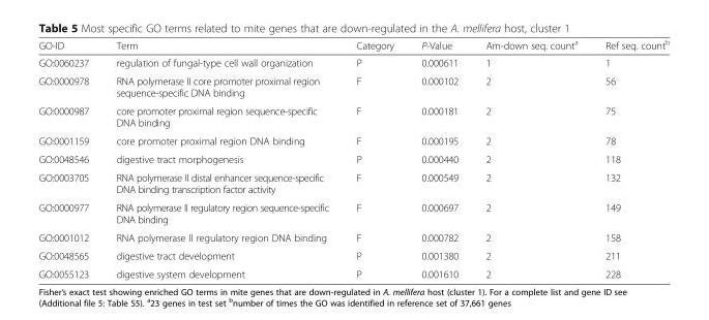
<table><thead><tr><td>GO-ID</td><td>Term</td><td>Category</td><td>P-Value</td><td>Am-down seq. count<sup>a</sup></td><td>Ref seq. count<sup>b</sup></td></tr></thead><tbody><tr><td>GO:0060237</td><td>regulation of fungal-type cell wall organization</td><td>P</td><td>0.000611</td><td>1</td><td>1</td></tr><tr><td>GO:0000978</td><td>RNA polymerase II core promoter proximal region sequence-specific DNA binding</td><td>F</td><td>0.000102</td><td>2</td><td>56</td></tr><tr><td>GO:0000987</td><td>core promoter proximal region sequence-specific DNA binding</td><td>F</td><td>0.000181</td><td>2</td><td>75</td></tr><tr><td>GO:0001159</td><td>core promoter proximal region DNA binding</td><td>F</td><td>0.000195</td><td>2</td><td>78</td></tr><tr><td>GO:0048546</td><td>digestive tract morphogenesis</td><td>P</td><td>0.000440</td><td>2</td><td>118</td></tr><tr><td>GO:0003705</td><td>RNA polymerase II distal enhancer sequence-specific DNA binding transcription factor activity</td><td>F</td><td>0.000549</td><td>2</td><td>132</td></tr><tr><td>GO:0000977</td><td>RNA polymerase II regulatory region sequence-specific DNA binding</td><td>F</td><td>0.000697</td><td>2</td><td>149</td></tr><tr><td>GO:0001012</td><td>RNA polymerase II regulatory region DNA binding</td><td>F</td><td>0.000782</td><td>2</td><td>158</td></tr><tr><td>GO:0048565</td><td>digestive tract development</td><td>P</td><td>0.001380</td><td>2</td><td>211</td></tr><tr><td>GO:0055123</td><td>digestive system development</td><td>P</td><td>0.001610</td><td>2</td><td>228</td></tr></tbody></table>